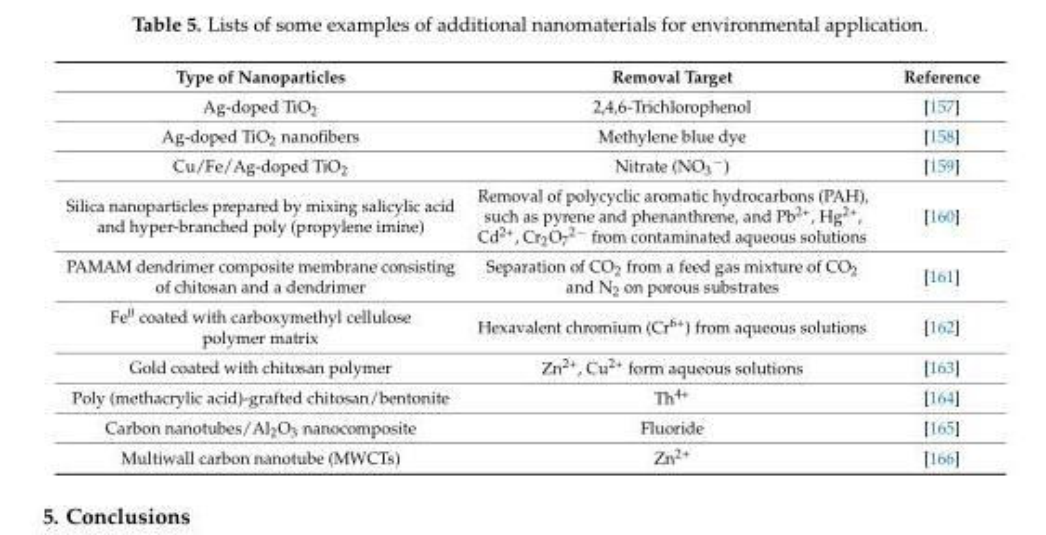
<table><thead><tr><td>Type of Nanoparticles</td><td>Removal Target</td><td>Reference</td></tr></thead><tbody><tr><td>Ag-doped TiO<sub>2</sub></td><td>2,4,6-Trichlorophenol</td><td>[157]</td></tr><tr><td>Ag-doped TiO<sub>2</sub> nanofibers</td><td>Methylene blue dye</td><td>[158]</td></tr><tr><td>Cu/Fe/Ag-doped TiO<sub>2</sub></td><td>Nitrate (NO<sub>3</sub><sup>−</sup>)</td><td>[159]</td></tr><tr><td>Silica nanoparticles prepared by mixing salicylic acid and hyper-branched poly (propylene imine)</td><td>Removal of polycyclic aromatic hydrocarbons (PAH), such as pyrene and phenanthrene, and Pb<sup>2+</sup>, Hg<sup>2+</sup>, Cd<sup>2+</sup>, Cr<sub>2</sub>O<sub>7</sub><sup>2−</sup> from contaminated aqueous solutions</td><td>[160]</td></tr><tr><td>PAMAM dendrimer composite membrane consisting of chitosan and a dendrimer</td><td>Separation of CO<sub>2</sub> from a feed gas mixture of CO<sub>2</sub> and N<sub>2</sub> on porous substrates</td><td>[161]</td></tr><tr><td>Fe<sup>0</sup> coated with carboxymethyl cellulose polymer matrix</td><td>Hexavalent chromium (Cr<sup>6+</sup>) from aqueous solutions</td><td>[162]</td></tr><tr><td>Gold coated with chitosan polymer</td><td>Zn<sup>2+</sup>, Cu<sup>2+</sup> form aqueous solutions</td><td>[163]</td></tr><tr><td>Poly (methacrylic acid)-grafted chitosan/bentonite</td><td>Th<sup>4+</sup></td><td>[164]</td></tr><tr><td>Carbon nanotubes/Al<sub>2</sub>O<sub>3</sub> nanocomposite</td><td>Fluoride</td><td>[165]</td></tr><tr><td>Multiwall carbon nanotube (MWCTs)</td><td>Zn<sup>2+</sup></td><td>[166]</td></tr></tbody></table>